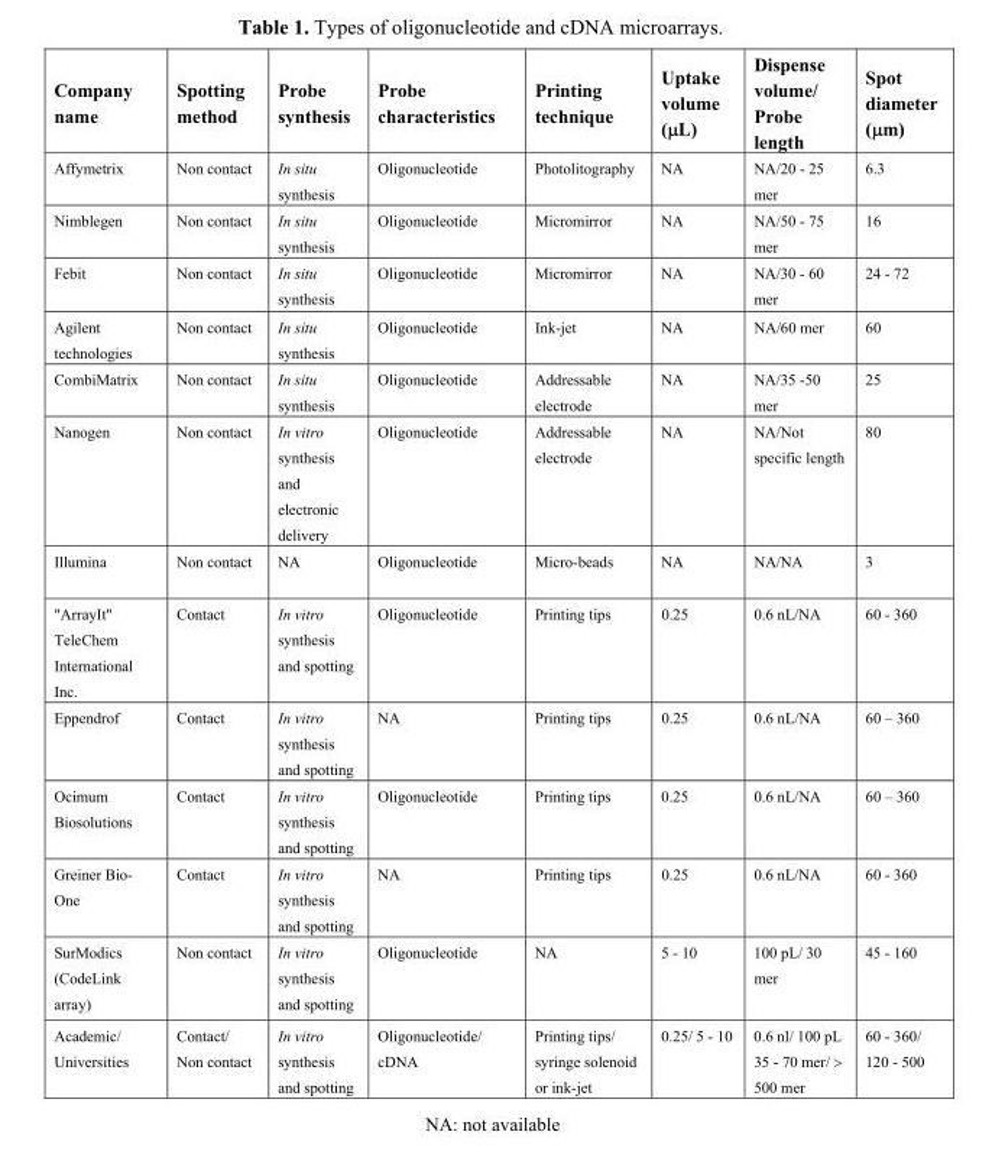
<table><thead><tr><td>Company name</td><td>Spotting method</td><td>Probe synthesis</td><td>Probe characteristics</td><td>Printing technique</td><td>Uptake volume (μL)</td><td>Dispense volume/ Probe length</td><td>Spot diameter (μm)</td></tr></thead><tbody><tr><td>Affymetrix</td><td>Non contact</td><td>In situ synthesis</td><td>Oligonucleotide</td><td>Photolitography</td><td>NA</td><td>NA/20 - 25 mer</td><td>6.3</td></tr><tr><td>Nimblegen</td><td>Non contact</td><td>In situ synthesis</td><td>Oligonucleotide</td><td>Micromirror</td><td>NA</td><td>NA/50 - 75 mer</td><td>16</td></tr><tr><td>Febit</td><td>Non contact</td><td>In situ synthesis</td><td>Oligonucleotide</td><td>Micromirror</td><td>NA</td><td>NA/30 - 60 mer</td><td>24 - 72</td></tr><tr><td>Agilent technologies</td><td>Non contact</td><td>In situ synthesis</td><td>Oligonucleotide</td><td>Ink-jet</td><td>NA</td><td>NA/60 mer</td><td>60</td></tr><tr><td>CombiMatrix</td><td>Non contact</td><td>In situ synthesis</td><td>Oligonucleotide</td><td>Addressable electrode</td><td>NA</td><td>NA/35 -50 mer</td><td>25</td></tr><tr><td>Nanogen</td><td>Non contact</td><td>In vitro synthesis and electronic delivery</td><td>Oligonucleotide</td><td>Addressable electrode</td><td>NA</td><td>NA/Not specific length</td><td>80</td></tr><tr><td>Illumina</td><td>Non contact</td><td>NA</td><td>Oligonucleotide</td><td>Micro-beads</td><td>NA</td><td>NA/NA</td><td>3</td></tr><tr><td>&quot;ArrayIt&quot; TeleChem International Inc.</td><td>Contact</td><td>In vitro synthesis and spotting</td><td>Oligonucleotide</td><td>Printing tips</td><td>0.25</td><td>0.6 nL/NA</td><td>60 - 360</td></tr><tr><td>Eppendrof</td><td>Contact</td><td>In vitro synthesis and spotting</td><td>NA</td><td>Printing tips</td><td>0.25</td><td>0.6 nL/NA</td><td>60 – 360</td></tr><tr><td>Ocimum Biosolutions</td><td>Contact</td><td>In vitro synthesis and spotting</td><td>Oligonucleotide</td><td>Printing tips</td><td>0.25</td><td>0.6 nL/NA</td><td>60 – 360</td></tr><tr><td>Greiner Bio- One</td><td>Contact</td><td>In vitro synthesis and spotting</td><td>NA</td><td>Printing tips</td><td>0.25</td><td>0.6 nL/NA</td><td>60 - 360</td></tr><tr><td>SurModics (CodeLink array)</td><td>Non contact</td><td>In vitro synthesis and spotting</td><td>Oligonucleotide</td><td>NA</td><td>5 - 10</td><td>100 pL/ 30 mer</td><td>45 - 160</td></tr><tr><td>Academic/ Universities</td><td>Contact/ Non contact</td><td>In vitro synthesis and spotting</td><td>Oligonucleotide/ cDNA</td><td>Printing tips/ syringe solenoid or ink-jet</td><td>0.25/ 5 - 10</td><td>0.6 nl/ 100 pL 35 - 70 mer/ &gt; 500 mer</td><td>60 - 360/ 120 - 500</td></tr></tbody></table>